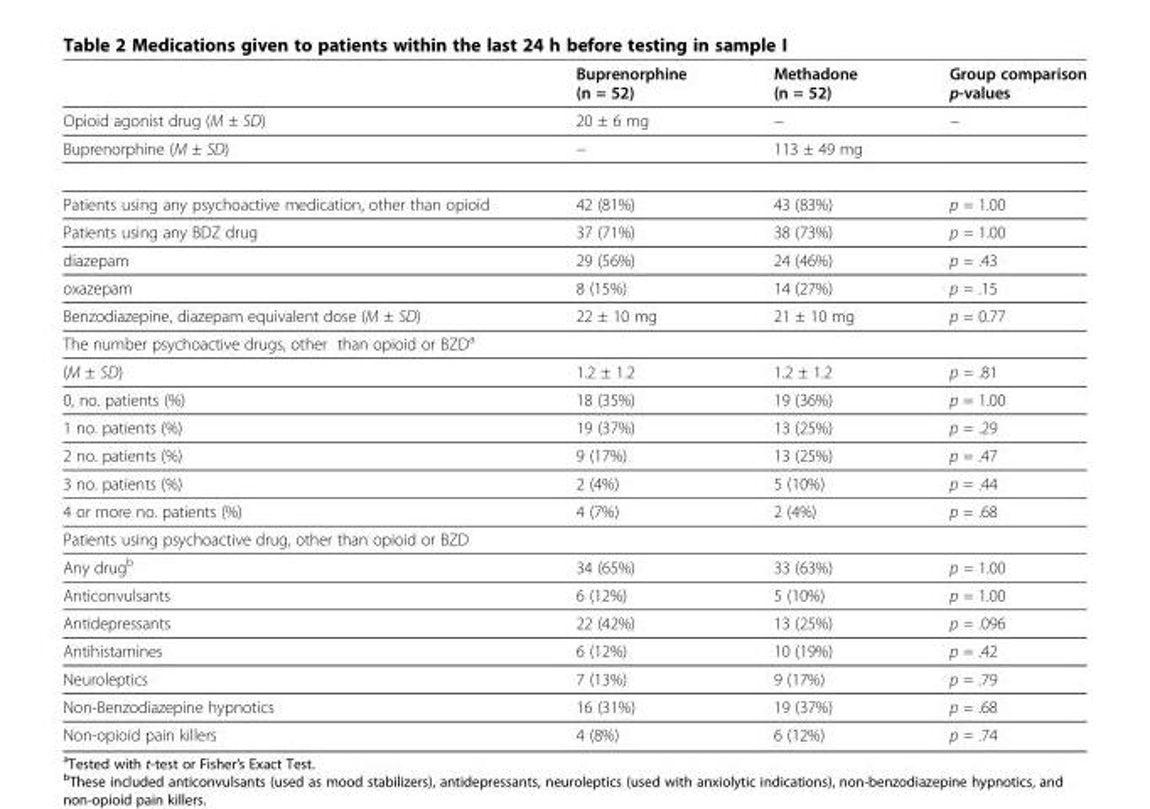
<table><thead><tr><td></td><td>Buprenorphine (n = 52)</td><td>Methadone (n = 52)</td><td>Group comparison p-values</td></tr></thead><tbody><tr><td>Opioid agonist drug (M ± SD)</td><td>20 ± 6 mg</td><td>−</td><td>−</td></tr><tr><td>Buprenorphine (M ± SD)</td><td>−</td><td>113 ± 49 mg</td><td></td></tr><tr><td>Patients using any psychoactive medication, other than opioid</td><td>42 (81%)</td><td>43 (83%)</td><td>p = 1.00</td></tr><tr><td>Patients using any BDZ drug</td><td>37 (71%)</td><td>38 (73%)</td><td>p = 1.00</td></tr><tr><td>diazepam</td><td>29 (56%)</td><td>24 (46%)</td><td>p = .43</td></tr><tr><td>oxazepam</td><td>8 (15%)</td><td>14 (27%)</td><td>p = .15</td></tr><tr><td>Benzodiazepine, diazepam equivalent dose (M ± SD)</td><td>22 ± 10 mg</td><td>21 ± 10 mg</td><td>p = 0.77</td></tr><tr><td colspan="4">The number psychoactive drugs, other than opioid or BZD<sup>a</sup></td></tr><tr><td>(M ± SD)</td><td>1.2 ± 1.2</td><td>1.2 ± 1.2</td><td>p = .81</td></tr><tr><td>0, no. patients (%)</td><td>18 (35%)</td><td>19 (36%)</td><td>p = 1.00</td></tr><tr><td>1 no. patients (%)</td><td>19 (37%)</td><td>13 (25%)</td><td>p = .29</td></tr><tr><td>2 no. patients (%)</td><td>9 (17%)</td><td>13 (25%)</td><td>p = .47</td></tr><tr><td>3 no. patients (%)</td><td>2 (4%)</td><td>5 (10%)</td><td>p = .44</td></tr><tr><td>4 or more no. patients (%)</td><td>4 (7%)</td><td>2 (4%)</td><td>p = .68</td></tr><tr><td colspan="4">Patients using psychoactive drug, other than opioid or BZD</td></tr><tr><td>Any drug<sup>b</sup></td><td>34 (65%)</td><td>33 (63%)</td><td>p = 1.00</td></tr><tr><td>Anticonvulsants</td><td>6 (12%)</td><td>5 (10%)</td><td>p = 1.00</td></tr><tr><td>Antidepressants</td><td>22 (42%)</td><td>13 (25%)</td><td>p = .096</td></tr><tr><td>Antihistamines</td><td>6 (12%)</td><td>10 (19%)</td><td>p = .42</td></tr><tr><td>Neuroleptics</td><td>7 (13%)</td><td>9 (17%)</td><td>p = .79</td></tr><tr><td>Non-Benzodiazepine hypnotics</td><td>16 (31%)</td><td>19 (37%)</td><td>p = .68</td></tr><tr><td>Non-opioid pain killers</td><td>4 (8%)</td><td>6 (12%)</td><td>p = .74</td></tr></tbody></table>